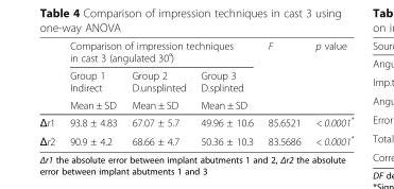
<table><thead><tr><td rowspan="3"></td><td colspan="3">Comparison of impression techniques in cast 3 (angulated 30<sup>৹</sup>)</td><td rowspan="3">F</td><td rowspan="3">p value</td></tr><tr><td rowspan="2">Group 1 Indirect Mean ± SD</td><td rowspan="2">Group 2 D.unsplinted Mean ± SD</td><td rowspan="2">Group 3 D.splinted Mean ± SD</td></tr><tr></tr></thead><tbody><tr><td>Δr1</td><td>93.8 ± 4.83</td><td>67.07 ± 5.7</td><td>49.96 ± 10.6</td><td>85.6521</td><td>&lt; 0.0001*</td></tr><tr><td>Δr2</td><td>90.9 ± 4.2</td><td>68.66 ± 4.7</td><td>50.36 ± 10.3</td><td>83.5686</td><td>&lt; 0.0001*</td></tr></tbody></table>